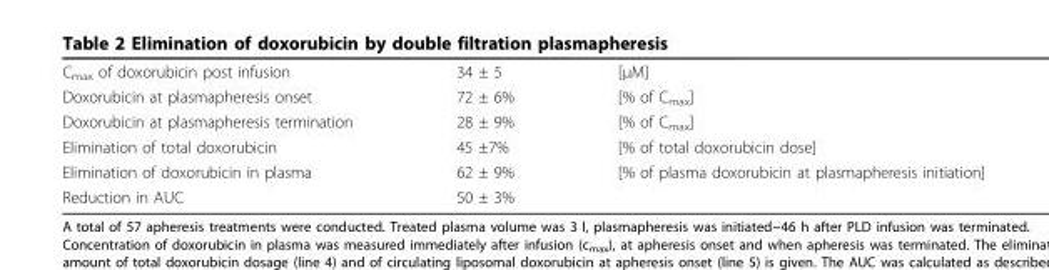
<table><tbody><tr><td>C<sub>max</sub> of doxorubicin post infusion</td><td>34 ± 5</td><td>[μM]</td></tr><tr><td>Doxorubicin at plasmapheresis onset</td><td>72 ± 6%</td><td>[% of C<sub>max</sub>]</td></tr><tr><td>Doxorubicin at plasmapheresis termination</td><td>28 ± 9%</td><td>[% of C<sub>max</sub>]</td></tr><tr><td>Elimination of total doxorubicin</td><td>45 ±7%</td><td>[% of total doxorubicin dose]</td></tr><tr><td>Elimination of doxorubicin in plasma</td><td>62 ± 9%</td><td>[% of plasma doxorubicin at plasmapheresis initiation]</td></tr><tr><td>Reduction in AUC</td><td>50 ± 3%</td><td></td></tr></tbody></table>